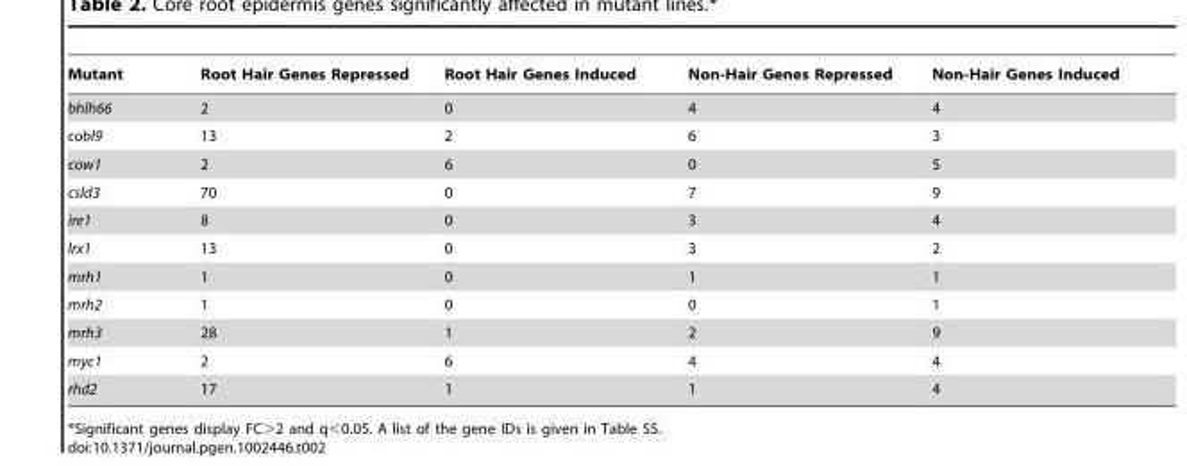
<table><thead><tr><td>Mutant</td><td>Root Hair Genes Repressed</td><td>Root Hair Genes Induced</td><td>Non-Hair Genes Repressed</td><td>Non-Hair Genes Induced</td></tr></thead><tbody><tr><td>bhlh66</td><td>2</td><td>0</td><td>4</td><td>4</td></tr><tr><td>cobl9</td><td>13</td><td>2</td><td>6</td><td>3</td></tr><tr><td>cow1</td><td>2</td><td>6</td><td>0</td><td>5</td></tr><tr><td>csld3</td><td>70</td><td>0</td><td>7</td><td>9</td></tr><tr><td>ire1</td><td>8</td><td>0</td><td>3</td><td>4</td></tr><tr><td>lrx1</td><td>13</td><td>0</td><td>3</td><td>2</td></tr><tr><td>mrh1</td><td>1</td><td>0</td><td>1</td><td>1</td></tr><tr><td>mrh2</td><td>1</td><td>0</td><td>0</td><td>1</td></tr><tr><td>mrh3</td><td>28</td><td>1</td><td>2</td><td>9</td></tr><tr><td>myc1</td><td>2</td><td>6</td><td>4</td><td>4</td></tr><tr><td>rhd2</td><td>17</td><td>1</td><td>1</td><td>4</td></tr></tbody></table>